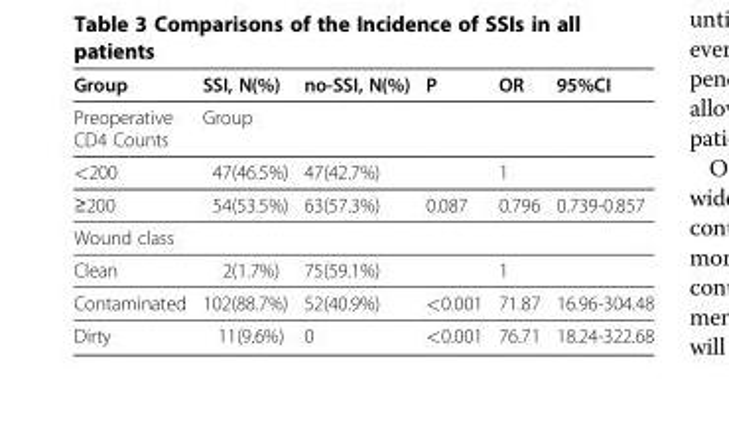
<table><thead><tr><td>Group</td><td>SSI, N(%)</td><td>no-SSI, N(%)</td><td>P</td><td>OR</td><td>95%CI</td></tr></thead><tbody><tr><td>Preoperative CD4 Counts</td><td>Group</td><td></td><td></td><td></td><td></td></tr><tr><td>&lt;200</td><td>47(46.5%)</td><td>47(42.7%)</td><td></td><td>1</td><td></td></tr><tr><td>≥200</td><td>54(53.5%)</td><td>63(57.3%)</td><td>0.087</td><td>0.796</td><td>0.739-0.857</td></tr><tr><td colspan="6">Wound class</td></tr><tr><td>Clean</td><td>2(1.7%)</td><td>75(59.1%)</td><td></td><td>1</td><td></td></tr><tr><td>Contaminated</td><td>102(88.7%)</td><td>52(40.9%)</td><td>&lt;0.001</td><td>71.87</td><td>16.96-304.48</td></tr><tr><td>Dirty</td><td>11(9.6%)</td><td>0</td><td>&lt;0.001</td><td>76.71</td><td>18.24-322.68</td></tr></tbody></table>